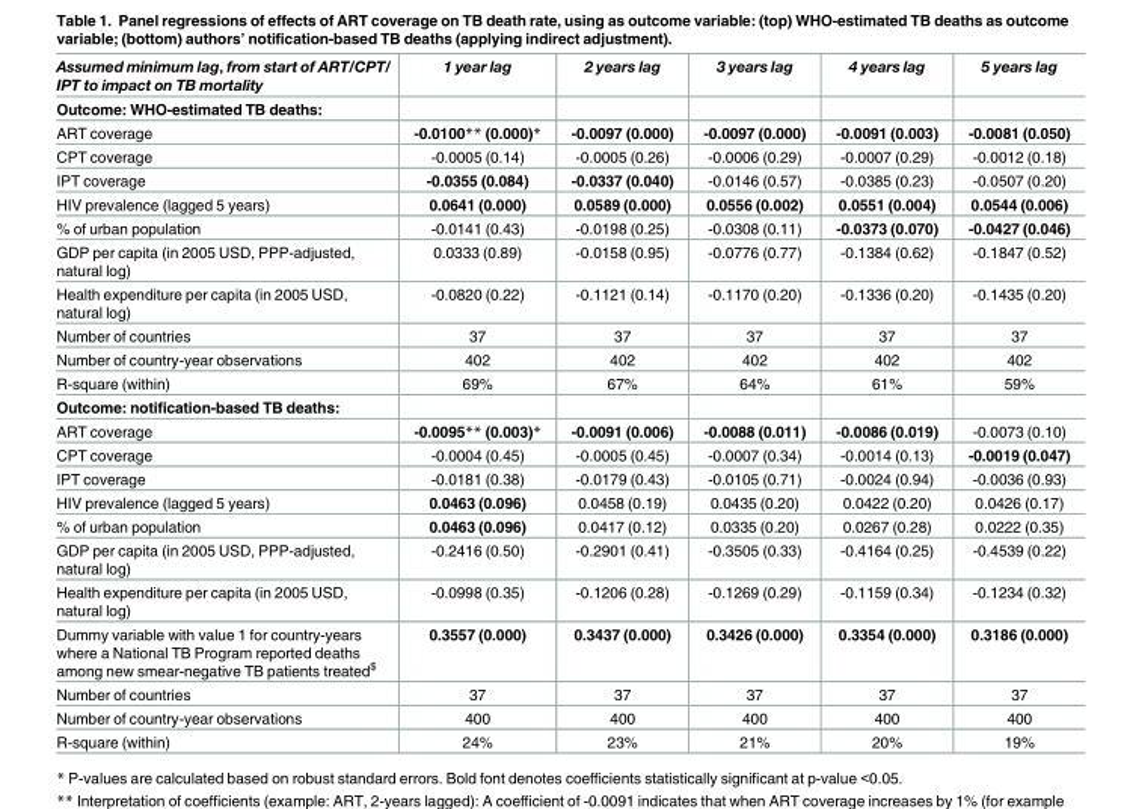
<table><thead><tr><td>Assumed minimum lag, from start of ART/CPT/ IPT to impact on TB mortality</td><td>1 year lag</td><td>2 years lag</td><td>3 years lag</td><td>4 years lag</td><td>5 years lag</td></tr></thead><tbody><tr><td colspan="6">Outcome: WHO-estimated TB deaths:</td></tr><tr><td>ART coverage</td><td>-0.0100** (0.000)*</td><td>-0.0097 (0.000)</td><td>-0.0097 (0.000)</td><td>-0.0091 (0.003)</td><td>-0.0081 (0.050)</td></tr><tr><td>CPT coverage</td><td>-0.0005 (0.14)</td><td>-0.0005 (0.26)</td><td>-0.0006 (0.29)</td><td>-0.0007 (0.29)</td><td>-0.0012 (0.18)</td></tr><tr><td>IPT coverage</td><td>-0.0355 (0.084)</td><td>-0.0337 (0.040)</td><td>-0.0146 (0.57)</td><td>-0.0385 (0.23)</td><td>-0.0507 (0.20)</td></tr><tr><td>HIV prevalence (lagged 5 years)</td><td>0.0641 (0.000)</td><td>0.0589 (0.000)</td><td>0.0556 (0.002)</td><td>0.0551 (0.004)</td><td>0.0544 (0.006)</td></tr><tr><td>% of urban population</td><td>-0.0141 (0.43)</td><td>-0.0198 (0.25)</td><td>-0.0308 (0.11)</td><td>-0.0373 (0.070)</td><td>-0.0427 (0.046)</td></tr><tr><td>GDP per capita (in 2005 USD, PPP-adjusted, natural log)</td><td>0.0333 (0.89)</td><td>-0.0158 (0.95)</td><td>-0.0776 (0.77)</td><td>-0.1384 (0.62)</td><td>-0.1847 (0.52)</td></tr><tr><td>Health expenditure per capita (in 2005 USD, natural log)</td><td>-0.0820 (0.22)</td><td>-0.1121 (0.14)</td><td>-0.1170 (0.20)</td><td>-0.1336 (0.20)</td><td>-0.1435 (0.20)</td></tr><tr><td>Number of countries</td><td>37</td><td>37</td><td>37</td><td>37</td><td>37</td></tr><tr><td>Number of country-year observations</td><td>402</td><td>402</td><td>402</td><td>402</td><td>402</td></tr><tr><td>R-square (within)</td><td>69%</td><td>67%</td><td>64%</td><td>61%</td><td>59%</td></tr><tr><td colspan="6">Outcome: notification-based TB deaths:</td></tr><tr><td>ART coverage</td><td>-0.0095** (0.003)*</td><td>-0.0091 (0.006)</td><td>-0.0088 (0.011)</td><td>-0.0086 (0.019)</td><td>-0.0073 (0.10)</td></tr><tr><td>CPT coverage</td><td>-0.0004 (0.45)</td><td>-0.0005 (0.45)</td><td>-0.0007 (0.34)</td><td>-0.0014 (0.13)</td><td>-0.0019 (0.047)</td></tr><tr><td>IPT coverage</td><td>-0.0181 (0.38)</td><td>-0.0179 (0.43)</td><td>-0.0105 (0.71)</td><td>-0.0024 (0.94)</td><td>-0.0036 (0.93)</td></tr><tr><td>HIV prevalence (lagged 5 years)</td><td>0.0463 (0.096)</td><td>0.0458 (0.19)</td><td>0.0435 (0.20)</td><td>0.0422 (0.20)</td><td>0.0426 (0.17)</td></tr><tr><td>% of urban population</td><td>0.0463 (0.096)</td><td>0.0417 (0.12)</td><td>0.0335 (0.20)</td><td>0.0267 (0.28)</td><td>0.0222 (0.35)</td></tr><tr><td>GDP per capita (in 2005 USD, PPP-adjusted, natural log)</td><td>-0.2416 (0.50)</td><td>-0.2901 (0.41)</td><td>-0.3505 (0.33)</td><td>-0.4164 (0.25)</td><td>-0.4539 (0.22)</td></tr><tr><td>Health expenditure per capita (in 2005 USD, natural log)</td><td>-0.0998 (0.35)</td><td>-0.1206 (0.28)</td><td>-0.1269 (0.29)</td><td>-0.1159 (0.34)</td><td>-0.1234 (0.32)</td></tr><tr><td>Dummy variable with value 1 for country-years where a National TB Program reported deaths among new smear-negative TB patients treated<sup>$</sup></td><td>0.3557 (0.000)</td><td>0.3437 (0.000)</td><td>0.3426 (0.000)</td><td>0.3354 (0.000)</td><td>0.3186 (0.000)</td></tr><tr><td>Number of countries</td><td>37</td><td>37</td><td>37</td><td>37</td><td>37</td></tr><tr><td>Number of country-year observations</td><td>400</td><td>400</td><td>400</td><td>400</td><td>400</td></tr><tr><td>R-square (within)</td><td>24%</td><td>23%</td><td>21%</td><td>20%</td><td>19%</td></tr></tbody></table>